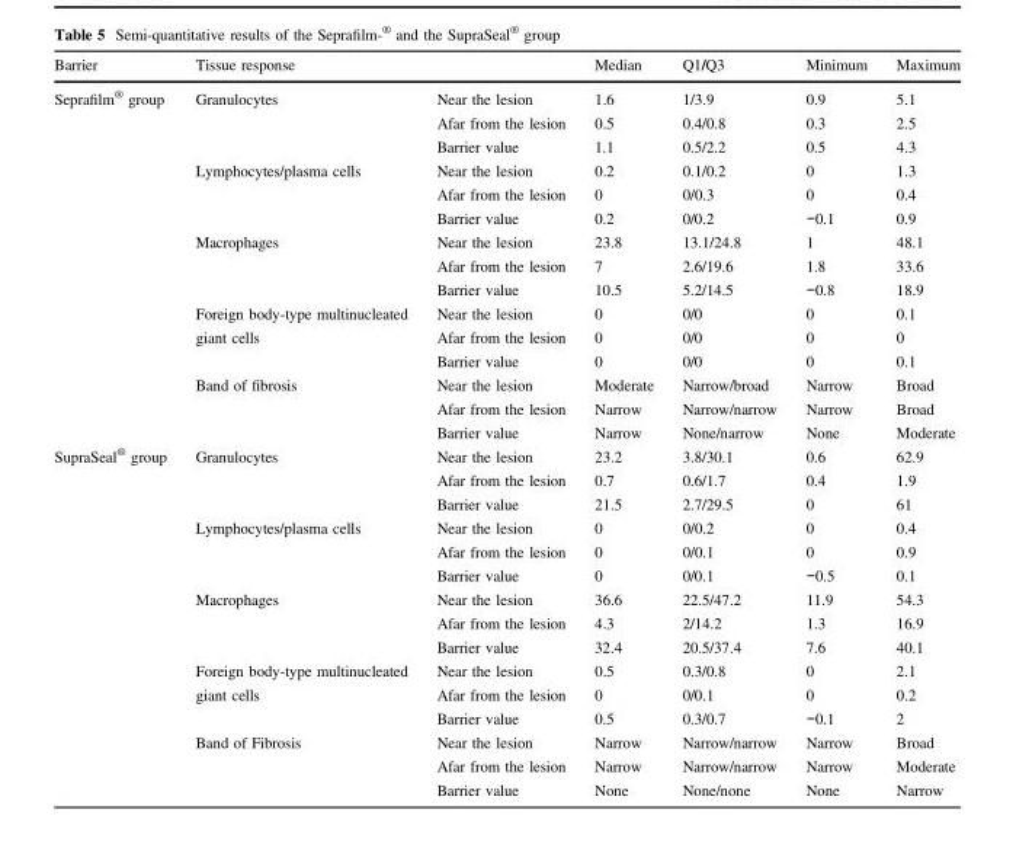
<table><thead><tr><td rowspan="2">Barrier Seprafilm<sup>®</sup> group</td><td colspan="2">Tissue response</td><td rowspan="2">Median 1.6</td><td rowspan="2">Q1/Q3 1/3.9</td><td rowspan="2">Minimum 0.9</td><td rowspan="2">Maximum 5.1</td></tr><tr><td>Granulocytes</td><td>Near the lesion</td></tr></thead><tbody><tr><td></td><td></td><td>Afar from the lesion</td><td>0.5</td><td>0.4/0.8</td><td>0.3</td><td>2.5</td></tr><tr><td></td><td></td><td>Barrier value</td><td>1.1</td><td>0.5/2.2</td><td>0.5</td><td>4.3</td></tr><tr><td></td><td>Lymphocytes/plasma cells</td><td>Near the lesion</td><td>0.2</td><td>0.1/0.2</td><td>0</td><td>1.3</td></tr><tr><td></td><td></td><td>Afar from the lesion</td><td>0</td><td>0/0.3</td><td>0</td><td>0.4</td></tr><tr><td></td><td></td><td>Barrier value</td><td>0.2</td><td>0/0.2</td><td>−0.1</td><td>0.9</td></tr><tr><td></td><td>Macrophages</td><td>Near the lesion</td><td>23.8</td><td>13.1/24.8</td><td>1</td><td>48.1</td></tr><tr><td></td><td></td><td>Afar from the lesion</td><td>7</td><td>2.6/19.6</td><td>1.8</td><td>33.6</td></tr><tr><td></td><td></td><td>Barrier value</td><td>10.5</td><td>5.2/14.5</td><td>−0.8</td><td>18.9</td></tr><tr><td></td><td>Foreign body-type multinucleated</td><td>Near the lesion</td><td>0</td><td>0/0</td><td>0</td><td>0.1</td></tr><tr><td></td><td>giant cells</td><td>Afar from the lesion</td><td>0</td><td>0/0</td><td>0</td><td>0</td></tr><tr><td></td><td></td><td>Barrier value</td><td>0</td><td>0/0</td><td>0</td><td>0.1</td></tr><tr><td></td><td>Band of fibrosis</td><td>Near the lesion</td><td>Moderate</td><td>Narrow/broad</td><td>Narrow</td><td>Broad</td></tr><tr><td></td><td></td><td>Afar from the lesion</td><td>Narrow</td><td>Narrow/narrow</td><td>Narrow</td><td>Broad</td></tr><tr><td></td><td></td><td>Barrier value</td><td>Narrow</td><td>None/narrow</td><td>None</td><td>Moderate</td></tr><tr><td rowspan="15">SupraSeal<sup>®</sup> group</td><td>Granulocytes</td><td>Near the lesion</td><td>23.2</td><td>3.8/30.1</td><td>0.6</td><td>62.9</td></tr><tr><td></td><td>Afar from the lesion</td><td>0.7</td><td>0.6/1.7</td><td>0.4</td><td>1.9</td></tr><tr><td></td><td>Barrier value</td><td>21.5</td><td>2.7/29.5</td><td>0</td><td>61</td></tr><tr><td>Lymphocytes/plasma cells</td><td>Near the lesion</td><td>0</td><td>0/0.2</td><td>0</td><td>0.4</td></tr><tr><td></td><td>Afar from the lesion</td><td>0</td><td>0/0.1</td><td>0</td><td>0.9</td></tr><tr><td></td><td>Barrier value</td><td>0</td><td>0/0.1</td><td>−0.5</td><td>0.1</td></tr><tr><td>Macrophages</td><td>Near the lesion</td><td>36.6</td><td>22.5/47.2</td><td>11.9</td><td>54.3</td></tr><tr><td></td><td>Afar from the lesion</td><td>4.3</td><td>2/14.2</td><td>1.3</td><td>16.9</td></tr><tr><td></td><td>Barrier value</td><td>32.4</td><td>20.5/37.4</td><td>7.6</td><td>40.1</td></tr><tr><td>Foreign body-type multinucleated</td><td>Near the lesion</td><td>0.5</td><td>0.3/0.8</td><td>0</td><td>2.1</td></tr><tr><td>giant cells</td><td>Afar from the lesion</td><td>0</td><td>0/0.1</td><td>0</td><td>0.2</td></tr><tr><td></td><td>Barrier value</td><td>0.5</td><td>0.3/0.7</td><td>−0.1</td><td>2</td></tr><tr><td>Band of Fibrosis</td><td>Near the lesion</td><td>Narrow</td><td>Narrow/narrow</td><td>Narrow</td><td>Broad</td></tr><tr><td></td><td>Afar from the lesion</td><td>Narrow</td><td>Narrow/narrow</td><td>Narrow</td><td>Moderate</td></tr><tr><td></td><td>Barrier value</td><td>None</td><td>None/none</td><td>None</td><td>Narrow</td></tr></tbody></table>